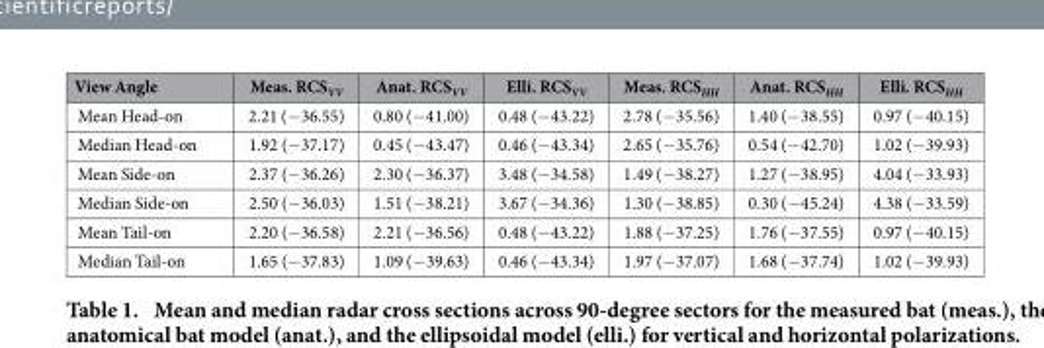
<table><thead><tr><td>View Angle</td><td>Meas. RCS<sub>VV</sub></td><td>Anat. RCS<sub>VV</sub></td><td>Elli. RCS<sub>VV</sub></td><td>Meas. RCS<sub>HH</sub></td><td>Anat. RCS<sub>HH</sub></td><td>Elli. RCS<sub>HH</sub></td></tr></thead><tbody><tr><td>Mean Head-on</td><td>2.21 (− 36.55)</td><td>0.80 (− 41.00)</td><td>0.48 (− 43.22)</td><td>2.78 (− 35.56)</td><td>1.40 (− 38.55)</td><td>0.97 (− 40.15)</td></tr><tr><td>Median Head-on</td><td>1.92 (− 37.17)</td><td>0.45 (− 43.47)</td><td>0.46 (− 43.34)</td><td>2.65 (− 35.76)</td><td>0.54 (− 42.70)</td><td>1.02 (− 39.93)</td></tr><tr><td>Mean Side-on</td><td>2.37 (− 36.26)</td><td>2.30 (− 36.37)</td><td>3.48 (− 34.58)</td><td>1.49 (− 38.27)</td><td>1.27 (− 38.95)</td><td>4.04 (− 33.93)</td></tr><tr><td>Median Side-on</td><td>2.50 (− 36.03)</td><td>1.51 (− 38.21)</td><td>3.67 (− 34.36)</td><td>1.30 (− 38.85)</td><td>0.30 (− 45.24)</td><td>4.38 (− 33.59)</td></tr><tr><td>Mean Tail-on</td><td>2.20 (− 36.58)</td><td>2.21 (− 36.56)</td><td>0.48 (− 43.22)</td><td>1.88 (− 37.25)</td><td>1.76 (− 37.55)</td><td>0.97 (− 40.15)</td></tr><tr><td>Median Tail-on</td><td>1.65 (− 37.83)</td><td>1.09 (− 39.63)</td><td>0.46 (− 43.34)</td><td>1.97 (− 37.07)</td><td>1.68 (− 37.74)</td><td>1.02 (− 39.93)</td></tr></tbody></table>